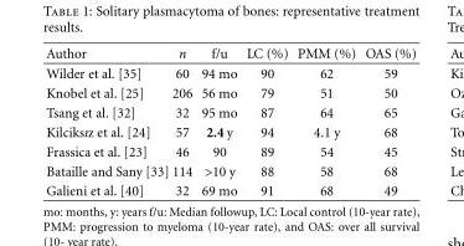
<table><thead><tr><td>Author</td><td>n</td><td>f/u</td><td>LC (%)</td><td>PMM (%)</td><td>OAS (%)</td></tr></thead><tbody><tr><td>Wilder et al. [35]</td><td>60</td><td>94 mo</td><td>90</td><td>62</td><td>59</td></tr><tr><td>Knobel et al. [25]</td><td>206</td><td>56 mo</td><td>79</td><td>51</td><td>50</td></tr><tr><td>Tsang et al. [32]</td><td>32</td><td>95 mo</td><td>87</td><td>64</td><td>65</td></tr><tr><td>Kilciksız et al. [24]</td><td>57</td><td>2.4 y</td><td>94</td><td>4.1 y</td><td>68</td></tr><tr><td>Frassica et al. [23]</td><td>46</td><td>90</td><td>89</td><td>54</td><td>45</td></tr><tr><td>Bataille and Sany [33]</td><td>114</td><td>&gt;10 y</td><td>88</td><td>58</td><td>68</td></tr><tr><td>Galieni et al. [40]</td><td>32</td><td>69 mo</td><td>91</td><td>68</td><td>49</td></tr></tbody></table>